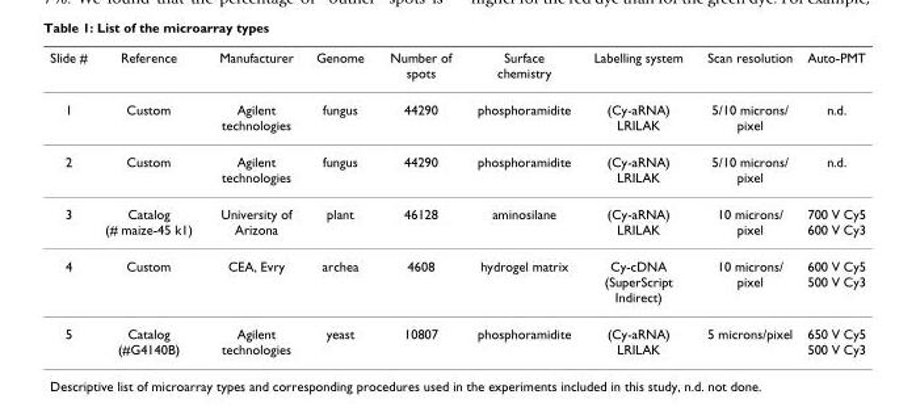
<table><thead><tr><td>Slide #</td><td>Reference</td><td>Manufacturer</td><td>Genome</td><td>Number of spots</td><td>Surface chemistry</td><td>Labelling system</td><td>Scan resolution</td><td>Auto-PMT</td></tr></thead><tbody><tr><td>1</td><td>Custom</td><td>Agilent technologies</td><td>fungus</td><td>44290</td><td>phosphoramidite</td><td>(Cy-aRNA) LRILAK</td><td>5/10 microns/ pixel</td><td>n.d.</td></tr><tr><td>2</td><td>Custom</td><td>Agilent technologies</td><td>fungus</td><td>44290</td><td>phosphoramidite</td><td>(Cy-aRNA) LRILAK</td><td>5/10 microns/ pixel</td><td>n.d.</td></tr><tr><td>3</td><td>Catalog (# maize-45 k1)</td><td>University of Arizona</td><td>plant</td><td>46128</td><td>aminosilane</td><td>(Cy-aRNA) LRILAK</td><td>10 microns/ pixel</td><td>700 V Cy5 600 V Cy3</td></tr><tr><td>4</td><td>Custom</td><td>CEA, Evry</td><td>archea</td><td>4608</td><td>hydrogel matrix</td><td>Cy-cDNA (SuperScript Indirect)</td><td>10 microns/ pixel</td><td>600 V Cy5 500 V Cy3</td></tr><tr><td>5</td><td>Catalog (#G4140B)</td><td>Agilent technologies</td><td>yeast</td><td>10807</td><td>phosphoramidite</td><td>(Cy-aRNA) LRILAK</td><td>5 microns/pixel</td><td>650 V Cy5 500 V Cy3</td></tr></tbody></table>